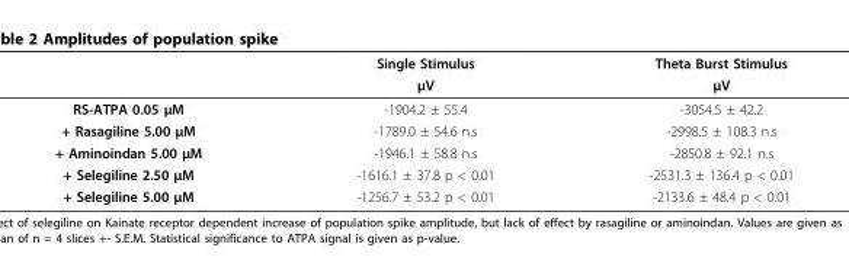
<table><thead><tr><td rowspan="2"></td><td rowspan="2">Single Stimulus μV</td><td rowspan="2">Theta Burst Stimulus μV</td></tr><tr></tr></thead><tbody><tr><td>RS-ATPA 0.05 μM</td><td>-1904.2 ± 55.4</td><td>-3054.5 ± 42.2</td></tr><tr><td>+ Rasagiline 5.00 μM</td><td>-1789.0 ± 54.6 n.s</td><td>-2998.5 ± 108.3 n.s</td></tr><tr><td>+ Aminoindan 5.00 μM</td><td>-1946.1 ± 58.8 n.s</td><td>-2850.8 ± 92.1 n.s</td></tr><tr><td>+ Selegiline 2.50 μM</td><td>-1616.1 ± 37.8 p &lt; 0.01</td><td>-2531.3 ± 136.4 p &lt; 0.01</td></tr><tr><td>+ Selegiline 5.00 μM</td><td>-1256.7 ± 53.2 p &lt; 0.01</td><td>-2133.6 ± 48.4 p &lt; 0.01</td></tr></tbody></table>